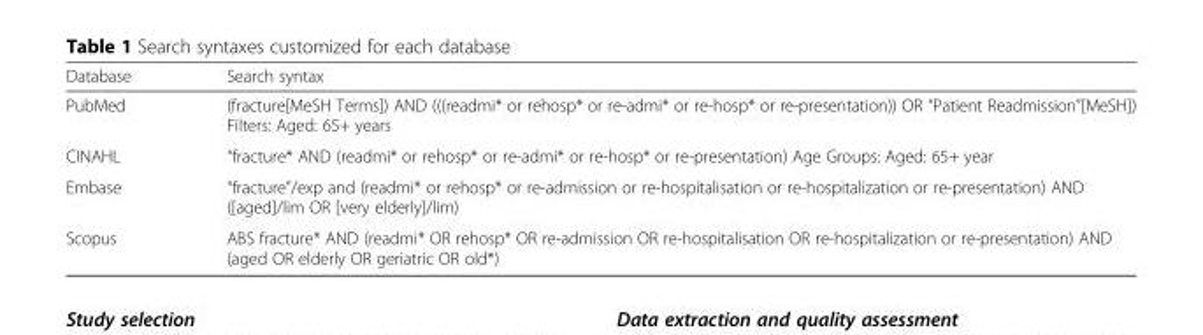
<table><thead><tr><td>Database</td><td>Search syntax</td></tr></thead><tbody><tr><td>PubMed</td><td>(fracture[MeSH Terms]) AND (((readmi* or rehosp* or re-admi* or re-hosp* or re-presentation)) OR “Patient Readmission”[MeSH]) Filters: Aged: 65+ years</td></tr><tr><td>CINAHL</td><td>“fracture* AND (readmi* or rehosp* or re-admi* or re-hosp* or re-presentation) Age Groups: Aged: 65+ year</td></tr><tr><td>Embase</td><td>“fracture”/exp and (readmi* or rehosp* or re-admission or re-hospitalisation or re-hospitalization or re-presentation) AND ([aged]/lim OR [very elderly]/lim)</td></tr><tr><td>Scopus</td><td>ABS fracture* AND (readmi* OR rehosp* OR re-admission OR re-hospitalisation OR re-hospitalization or re-presentation) AND (aged OR elderly OR geriatric OR old*)</td></tr></tbody></table>